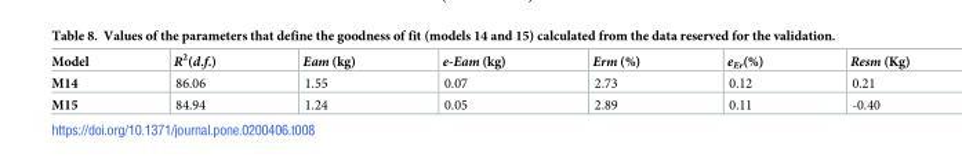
<table><thead><tr><td>Model</td><td>R<sup>2</sup>(d.f.)</td><td>Eam (kg)</td><td>e-Eam (kg)</td><td>Erm (%)</td><td>e<sup>Er</sup>(%)</td><td>Resm (Kg)</td></tr></thead><tbody><tr><td>M14</td><td>86.06</td><td>1.55</td><td>0.07</td><td>2.73</td><td>0.12</td><td>0.21</td></tr><tr><td>M15</td><td>84.94</td><td>1.24</td><td>0.05</td><td>2.89</td><td>0.11</td><td>-0.40</td></tr></tbody></table>